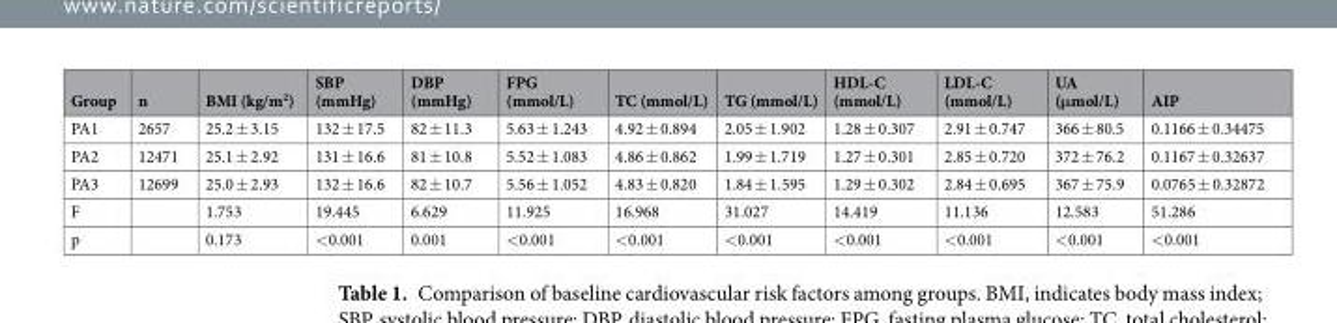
<table><thead><tr><td>Group</td><td>n</td><td>BMI (kg/m<sup>2</sup>)</td><td>SBP (mmHg)</td><td>DBP (mmHg)</td><td>FPG (mmol/L)</td><td>TC (mmol/L)</td><td>TG (mmol/L)</td><td>HDL-C (mmol/L)</td><td>LDL-C (mmol/L)</td><td>UA (μmol/L)</td><td>AIP</td></tr></thead><tbody><tr><td>PA1</td><td>2657</td><td>25.2 ± 3.15</td><td>132 ± 17.5</td><td>82 ± 11.3</td><td>5.63 ± 1.243</td><td>4.92 ± 0.894</td><td>2.05 ± 1.902</td><td>1.28 ± 0.307</td><td>2.91 ± 0.747</td><td>366 ± 80.5</td><td>0.1166 ± 0.34475</td></tr><tr><td>PA2</td><td>12471</td><td>25.1 ± 2.92</td><td>131 ± 16.6</td><td>81 ± 10.8</td><td>5.52 ± 1.083</td><td>4.86 ± 0.862</td><td>1.99 ± 1.719</td><td>1.27 ± 0.301</td><td>2.85 ± 0.720</td><td>372 ± 76.2</td><td>0.1167 ± 0.32637</td></tr><tr><td>PA3</td><td>12699</td><td>25.0 ± 2.93</td><td>132 ± 16.6</td><td>82 ± 10.7</td><td>5.56 ± 1.052</td><td>4.83 ± 0.820</td><td>1.84 ± 1.595</td><td>1.29 ± 0.302</td><td>2.84 ± 0.695</td><td>367 ± 75.9</td><td>0.0765 ± 0.32872</td></tr><tr><td>F</td><td></td><td>1.753</td><td>19.445</td><td>6.629</td><td>11.925</td><td>16.968</td><td>31.027</td><td>14.419</td><td>11.136</td><td>12.583</td><td>51.286</td></tr><tr><td>p</td><td></td><td>0.173</td><td>&lt;0.001</td><td>0.001</td><td>&lt;0.001</td><td>&lt;0.001</td><td>&lt;0.001</td><td>&lt;0.001</td><td>&lt;0.001</td><td>&lt;0.001</td><td>&lt;0.001</td></tr></tbody></table>